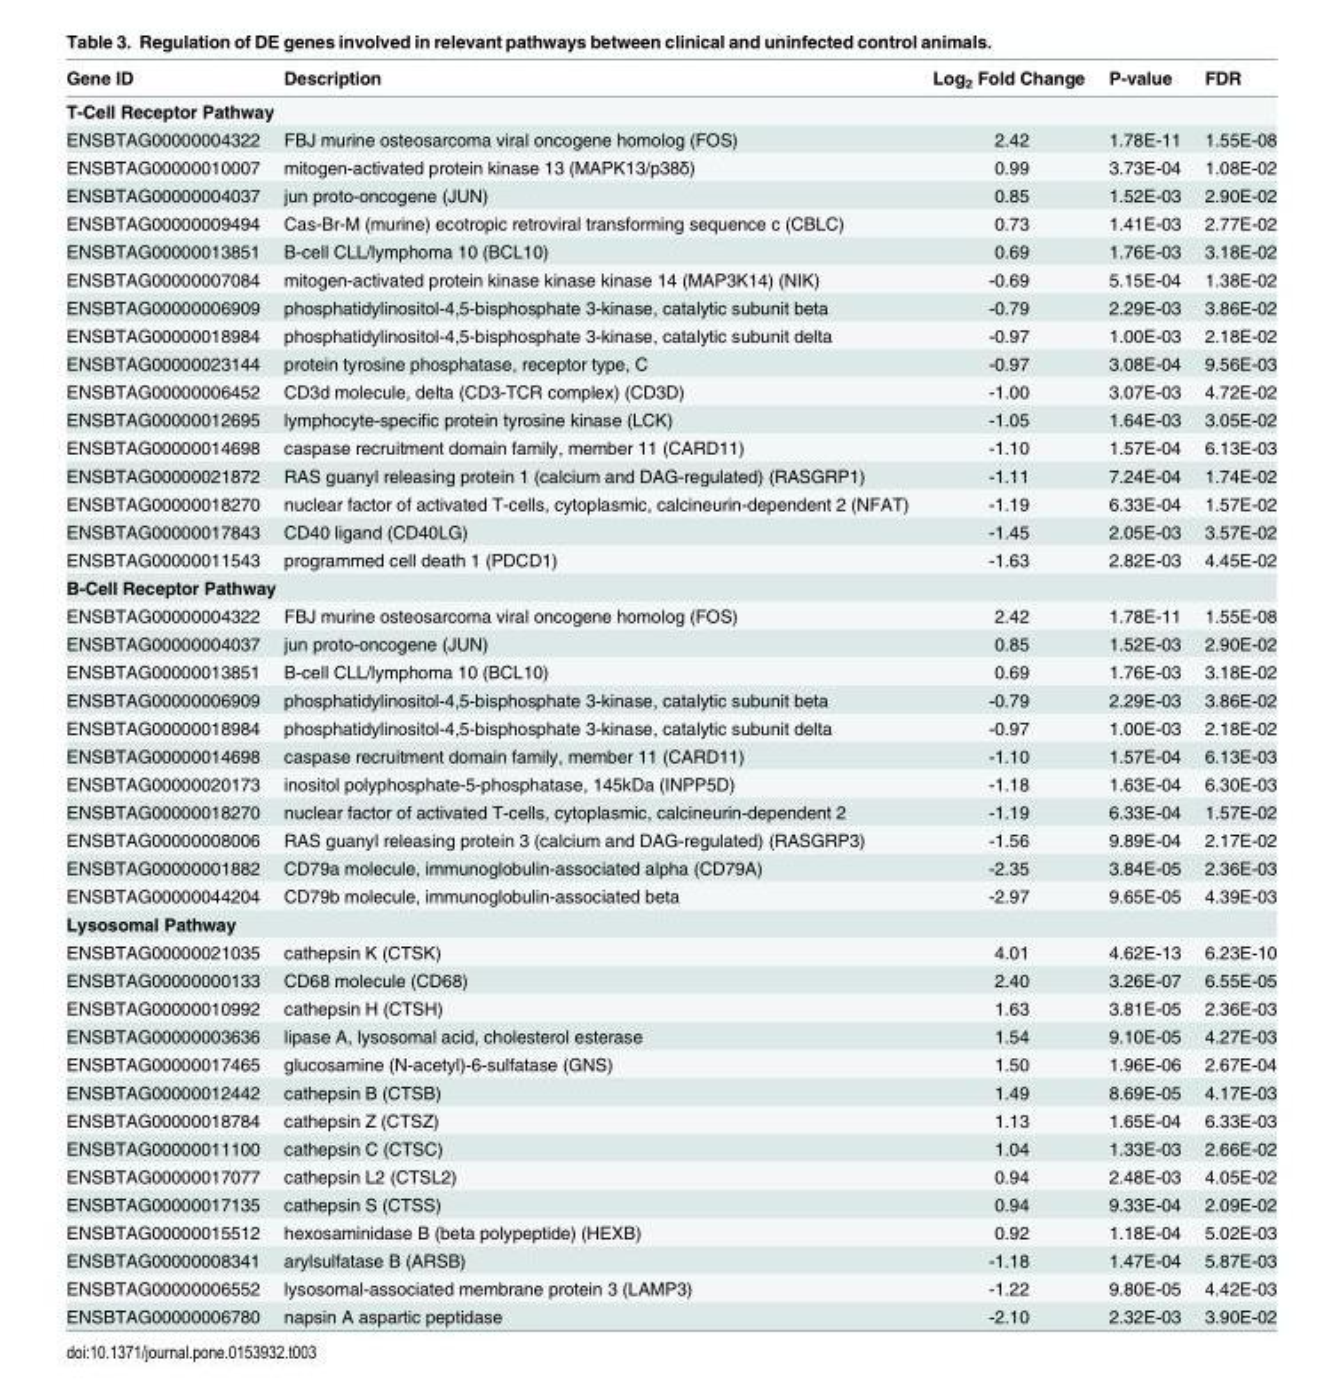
<table><thead><tr><td>Gene ID</td><td>Description</td><td>Log<sub>2</sub> Fold Change</td><td>P-value</td><td>FDR</td></tr></thead><tbody><tr><td colspan="5">T-Cell Receptor Pathway</td></tr><tr><td>ENSBTAG00000004322</td><td>FBJ murine osteosarcoma viral oncogene homolog (FOS)</td><td>2.42</td><td>1.78E-11</td><td>1.55E-08</td></tr><tr><td>ENSBTAG00000010007</td><td>mitogen-activated protein kinase 13 (MAPK13/p38δ)</td><td>0.99</td><td>3.73E-04</td><td>1.08E-02</td></tr><tr><td>ENSBTAG00000004037</td><td>jun proto-oncogene (JUN)</td><td>0.85</td><td>1.52E-03</td><td>2.90E-02</td></tr><tr><td>ENSBTAG00000009494</td><td>Cas-Br-M (murine) ecotropic retroviral transforming sequence c (CBLC)</td><td>0.73</td><td>1.41E-03</td><td>2.77E-02</td></tr><tr><td>ENSBTAG00000013851</td><td>B-cell CLL/lymphoma 10 (BCL10)</td><td>0.69</td><td>1.76E-03</td><td>3.18E-02</td></tr><tr><td>ENSBTAG00000007084</td><td>mitogen-activated protein kinase kinase kinase 14 (MAP3K14) (NIK)</td><td>-0.69</td><td>5.15E-04</td><td>1.38E-02</td></tr><tr><td>ENSBTAG00000006909</td><td>phosphatidylinositol-4,5-bisphosphate 3-kinase, catalytic subunit beta</td><td>-0.79</td><td>2.29E-03</td><td>3.86E-02</td></tr><tr><td>ENSBTAG00000018984</td><td>phosphatidylinositol-4,5-bisphosphate 3-kinase, catalytic subunit delta</td><td>-0.97</td><td>1.00E-03</td><td>2.18E-02</td></tr><tr><td>ENSBTAG00000023144</td><td>protein tyrosine phosphatase, receptor type, C</td><td>-0.97</td><td>3.08E-04</td><td>9.56E-03</td></tr><tr><td>ENSBTAG00000006452</td><td>CD3d molecule, delta (CD3-TCR complex) (CD3D)</td><td>-1.00</td><td>3.07E-03</td><td>4.72E-02</td></tr><tr><td>ENSBTAG00000012695</td><td>lymphocyte-specific protein tyrosine kinase (LCK)</td><td>-1.05</td><td>1.64E-03</td><td>3.05E-02</td></tr><tr><td>ENSBTAG00000014698</td><td>caspase recruitment domain family, member 11 (CARD11)</td><td>-1.10</td><td>1.57E-04</td><td>6.13E-03</td></tr><tr><td>ENSBTAG00000021872</td><td>RAS guanyl releasing protein 1 (calcium and DAG-regulated) (RASGRP1)</td><td>-1.11</td><td>7.24E-04</td><td>1.74E-02</td></tr><tr><td>ENSBTAG00000018270</td><td>nuclear factor of activated T-cells, cytoplasmic, calcineurin-dependent 2 (NFAT)</td><td>-1.19</td><td>6.33E-04</td><td>1.57E-02</td></tr><tr><td>ENSBTAG00000017843</td><td>CD40 ligand (CD40LG)</td><td>-1.45</td><td>2.05E-03</td><td>3.57E-02</td></tr><tr><td>ENSBTAG00000011543</td><td>programmed cell death 1 (PDCD1)</td><td>-1.63</td><td>2.82E-03</td><td>4.45E-02</td></tr><tr><td colspan="5">B-Cell Receptor Pathway</td></tr><tr><td>ENSBTAG00000004322</td><td>FBJ murine osteosarcoma viral oncogene homolog (FOS)</td><td>2.42</td><td>1.78E-11</td><td>1.55E-08</td></tr><tr><td>ENSBTAG00000004037</td><td>jun proto-oncogene (JUN)</td><td>0.85</td><td>1.52E-03</td><td>2.90E-02</td></tr><tr><td>ENSBTAG00000013851</td><td>B-cell CLL/lymphoma 10 (BCL10)</td><td>0.69</td><td>1.76E-03</td><td>3.18E-02</td></tr><tr><td>ENSBTAG00000006909</td><td>phosphatidylinositol-4,5-bisphosphate 3-kinase, catalytic subunit beta</td><td>-0.79</td><td>2.29E-03</td><td>3.86E-02</td></tr><tr><td>ENSBTAG00000018984</td><td>phosphatidylinositol-4,5-bisphosphate 3-kinase, catalytic subunit delta</td><td>-0.97</td><td>1.00E-03</td><td>2.18E-02</td></tr><tr><td>ENSBTAG00000014698</td><td>caspase recruitment domain family, member 11 (CARD11)</td><td>-1.10</td><td>1.57E-04</td><td>6.13E-03</td></tr><tr><td>ENSBTAG00000020173</td><td>inositol polyphosphate-5-phosphatase, 145kDa (INPP5D)</td><td>-1.18</td><td>1.63E-04</td><td>6.30E-03</td></tr><tr><td>ENSBTAG00000018270</td><td>nuclear factor of activated T-cells, cytoplasmic, calcineurin-dependent 2</td><td>-1.19</td><td>6.33E-04</td><td>1.57E-02</td></tr><tr><td>ENSBTAG00000008006</td><td>RAS guanyl releasing protein 3 (calcium and DAG-regulated) (RASGRP3)</td><td>-1.56</td><td>9.89E-04</td><td>2.17E-02</td></tr><tr><td>ENSBTAG00000001882</td><td>CD79a molecule, immunoglobulin-associated alpha (CD79A)</td><td>-2.35</td><td>3.84E-05</td><td>2.36E-03</td></tr><tr><td>ENSBTAG00000044204</td><td>CD79b molecule, immunoglobulin-associated beta</td><td>-2.97</td><td>9.65E-05</td><td>4.39E-03</td></tr><tr><td colspan="5">Lysosomal Pathway</td></tr><tr><td>ENSBTAG00000021035</td><td>cathepsin K (CTSK)</td><td>4.01</td><td>4.62E-13</td><td>6.23E-10</td></tr><tr><td>ENSBTAG00000000133</td><td>CD68 molecule (CD68)</td><td>2.40</td><td>3.26E-07</td><td>6.55E-05</td></tr><tr><td>ENSBTAG00000010992</td><td>cathepsin H (CTSH)</td><td>1.63</td><td>3.81E-05</td><td>2.36E-03</td></tr><tr><td>ENSBTAG00000003636</td><td>lipase A, lysosomal acid, cholesterol esterase</td><td>1.54</td><td>9.10E-05</td><td>4.27E-03</td></tr><tr><td>ENSBTAG00000017465</td><td>glucosamine (N-acetyl)-6-sulfatase (GNS)</td><td>1.50</td><td>1.96E-06</td><td>2.67E-04</td></tr><tr><td>ENSBTAG00000012442</td><td>cathepsin B (CTSB)</td><td>1.49</td><td>8.69E-05</td><td>4.17E-03</td></tr><tr><td>ENSBTAG00000018784</td><td>cathepsin Z (CTSZ)</td><td>1.13</td><td>1.65E-04</td><td>6.33E-03</td></tr><tr><td>ENSBTAG00000011100</td><td>cathepsin C (CTSC)</td><td>1.04</td><td>1.33E-03</td><td>2.66E-02</td></tr><tr><td>ENSBTAG00000017077</td><td>cathepsin L2 (CTSL2)</td><td>0.94</td><td>2.48E-03</td><td>4.05E-02</td></tr><tr><td>ENSBTAG00000017135</td><td>cathepsin S (CTSS)</td><td>0.94</td><td>9.33E-04</td><td>2.09E-02</td></tr><tr><td>ENSBTAG00000015512</td><td>hexosaminidase B (beta polypeptide) (HEXB)</td><td>0.92</td><td>1.18E-04</td><td>5.02E-03</td></tr><tr><td>ENSBTAG00000008341</td><td>arylsulfatase B (ARSB)</td><td>-1.18</td><td>1.47E-04</td><td>5.87E-03</td></tr><tr><td>ENSBTAG00000006552</td><td>lysosomal-associated membrane protein 3 (LAMP3)</td><td>-1.22</td><td>9.80E-05</td><td>4.42E-03</td></tr><tr><td>ENSBTAG00000006780</td><td>napsin A aspartic peptidase</td><td>-2.10</td><td>2.32E-03</td><td>3.90E-02</td></tr></tbody></table>